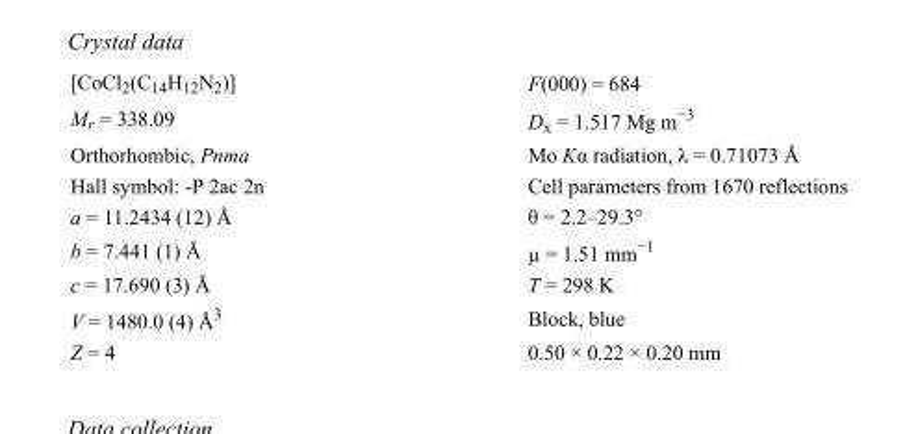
<table><tbody><tr><td>[CoCl<sub>2</sub>(C<sub>14</sub>H<sub>12</sub>N<sub>2</sub>)]</td><td>F(000) = 684</td></tr><tr><td>M<sub>r</sub> = 338.09</td><td>D<sub>x</sub> = 1.517 Mg m<sup>−3</sup></td></tr><tr><td>Orthorhombic, Pnma</td><td>Mo Kα radiation, λ = 0.71073 Å</td></tr><tr><td>Hall symbol: -P 2ac 2n</td><td>Cell parameters from 1670 reflections</td></tr><tr><td>a = 11.2434 (12) Å</td><td>θ = 2.2–29.3°</td></tr><tr><td>b = 7.441 (1) Å</td><td>µ = 1.51 mm<sup>−1</sup></td></tr><tr><td>c = 17.690 (3) Å</td><td>T = 298 K</td></tr><tr><td>V = 1480.0 (4) Å<sup>3</sup></td><td>Block, blue</td></tr><tr><td>Z = 4</td><td>0.50 × 0.22 × 0.20 mm</td></tr></tbody></table>